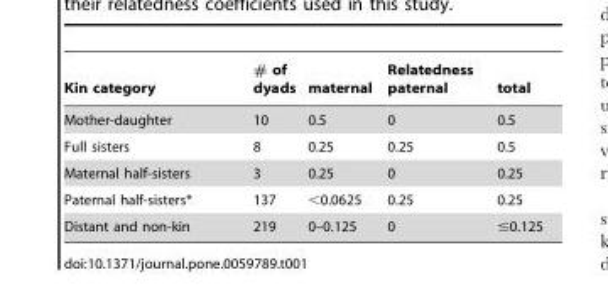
<table><thead><tr><td>Kin category</td><td># of dyads</td><td>maternal</td><td>Relatedness paternal</td><td>total</td></tr></thead><tbody><tr><td>Mother-daughter</td><td>10</td><td>0.5</td><td>0</td><td>0.5</td></tr><tr><td>Full sisters</td><td>8</td><td>0.25</td><td>0.25</td><td>0.5</td></tr><tr><td>Maternal half-sisters</td><td>3</td><td>0.25</td><td>0</td><td>0.25</td></tr><tr><td>Paternal half-sisters*</td><td>137</td><td>&lt;0.0625</td><td>0.25</td><td>0.25</td></tr><tr><td>Distant and non-kin</td><td>219</td><td>0–0.125</td><td>0</td><td>≤0.125</td></tr></tbody></table>